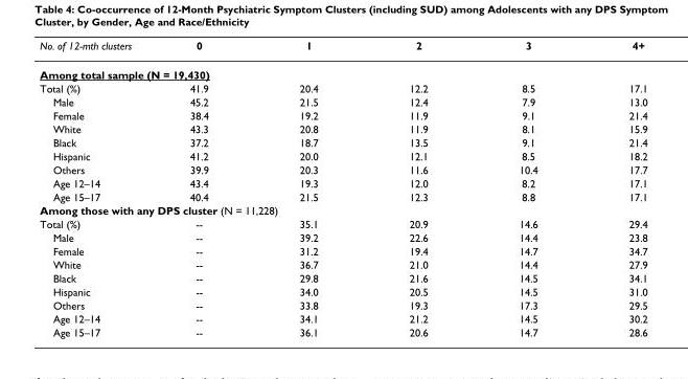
<table><thead><tr><td>No. of 12-mth clusters</td><td>0</td><td>1</td><td>2</td><td>3</td><td>4+</td></tr></thead><tbody><tr><td colspan="6">Among total sample (N = 19,430)</td></tr><tr><td>Total (%)</td><td>41.9</td><td>20.4</td><td>12.2</td><td>8.5</td><td>17.1</td></tr><tr><td>Male</td><td>45.2</td><td>21.5</td><td>12.4</td><td>7.9</td><td>13.0</td></tr><tr><td>Female</td><td>38.4</td><td>19.2</td><td>11.9</td><td>9.1</td><td>21.4</td></tr><tr><td>White</td><td>43.3</td><td>20.8</td><td>11.9</td><td>8.1</td><td>15.9</td></tr><tr><td>Black</td><td>37.2</td><td>18.7</td><td>13.5</td><td>9.1</td><td>21.4</td></tr><tr><td>Hispanic</td><td>41.2</td><td>20.0</td><td>12.1</td><td>8.5</td><td>18.2</td></tr><tr><td>Others</td><td>39.9</td><td>20.3</td><td>11.6</td><td>10.4</td><td>17.7</td></tr><tr><td>Age 12–14</td><td>43.4</td><td>19.3</td><td>12.0</td><td>8.2</td><td>17.1</td></tr><tr><td>Age 15–17</td><td>40.4</td><td>21.5</td><td>12.3</td><td>8.8</td><td>17.1</td></tr><tr><td colspan="6">Among those with any DPS cluster (N = 11,228)</td></tr><tr><td>Total (%)</td><td>--</td><td>35.1</td><td>20.9</td><td>14.6</td><td>29.4</td></tr><tr><td>Male</td><td>--</td><td>39.2</td><td>22.6</td><td>14.4</td><td>23.8</td></tr><tr><td>Female</td><td>--</td><td>31.2</td><td>19.4</td><td>14.7</td><td>34.7</td></tr><tr><td>White</td><td>--</td><td>36.7</td><td>21.0</td><td>14.4</td><td>27.9</td></tr><tr><td>Black</td><td>--</td><td>29.8</td><td>21.6</td><td>14.5</td><td>34.1</td></tr><tr><td>Hispanic</td><td>--</td><td>34.0</td><td>20.5</td><td>14.5</td><td>31.0</td></tr><tr><td>Others</td><td>--</td><td>33.8</td><td>19.3</td><td>17.3</td><td>29.5</td></tr><tr><td>Age 12–14</td><td>--</td><td>34.1</td><td>21.2</td><td>14.5</td><td>30.2</td></tr><tr><td>Age 15–17</td><td>--</td><td>36.1</td><td>20.6</td><td>14.7</td><td>28.6</td></tr></tbody></table>